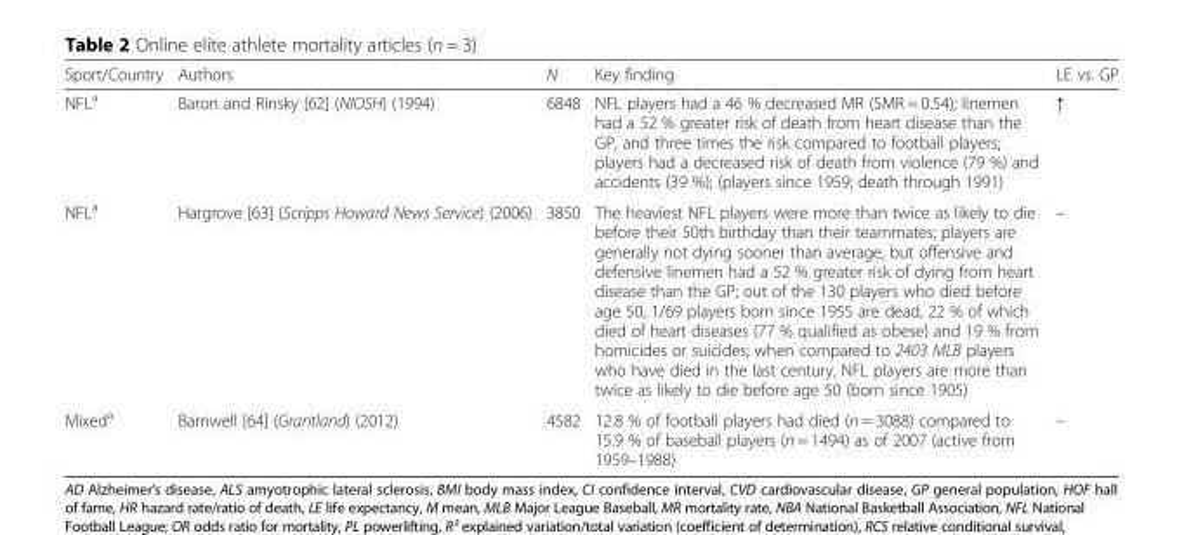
<table><thead><tr><td>Sport/Country</td><td>Authors</td><td>N</td><td>Key finding</td><td>LE vs. GP</td></tr></thead><tbody><tr><td>NFL<sup>a</sup></td><td>Baron and Rinsky [62] (NIOSH) (1994)</td><td>6848</td><td>NFL players had a 46 % decreased MR (SMR = 0.54); linemen had a 52 % greater risk of death from heart disease than the GP, and three times the risk compared to football players; players had a decreased risk of death from violence (79 %) and accidents (39 %); (players since 1959; death through 1991)</td><td>↑</td></tr><tr><td>NFL<sup>a</sup></td><td>Hargrove [63] (Scripps Howard News Service) (2006)</td><td>3850</td><td>The heaviest NFL players were more than twice as likely to die before their 50th birthday than their teammates; players are generally not dying sooner than average, but offensive and defensive linemen had a 52 % greater risk of dying from heart disease than the GP; out of the 130 players who died before age 50, 1/69 players born since 1955 are dead, 22 % of which died of heart diseases (77 % qualified as obese) and 19 % from homicides or suicides; when compared to 2403 MLB players who have died in the last century, NFL players are more than twice as likely to die before age 50 (born since 1905)</td><td>–</td></tr><tr><td>Mixed<sup>a</sup></td><td>Barnwell [64] (Grantland) (2012)</td><td>4582</td><td>12.8 % of football players had died (n = 3088) compared to 15.9 % of baseball players (n = 1494) as of 2007 (active from 1959–1988)</td><td>–</td></tr></tbody></table>